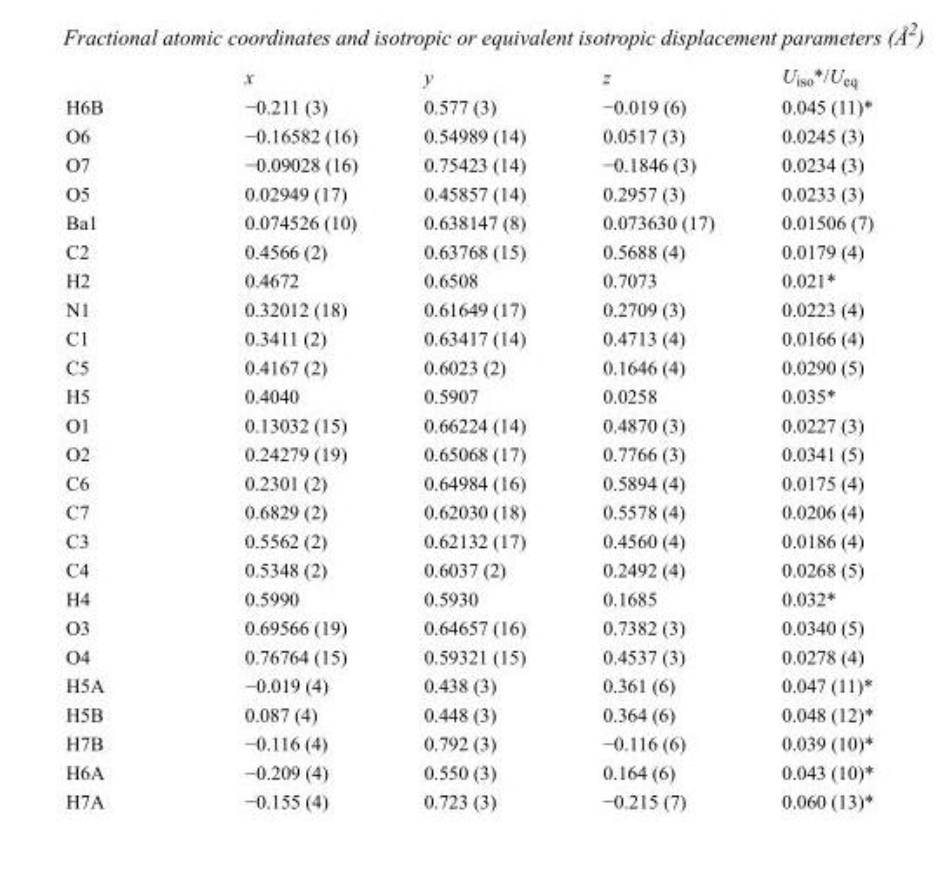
<table><thead><tr><td></td><td>x</td><td>y</td><td>z</td><td>U<sub>iso</sub>*/U<sub>eq</sub></td></tr></thead><tbody><tr><td>H6B</td><td>−0.211 (3)</td><td>0.577 (3)</td><td>−0.019 (6)</td><td>0.045 (11)*</td></tr><tr><td>O6</td><td>−0.16582 (16)</td><td>0.54989 (14)</td><td>0.0517 (3)</td><td>0.0245 (3)</td></tr><tr><td>O7</td><td>−0.09028 (16)</td><td>0.75423 (14)</td><td>−0.1846 (3)</td><td>0.0234 (3)</td></tr><tr><td>O5</td><td>0.02949 (17)</td><td>0.45857 (14)</td><td>0.2957 (3)</td><td>0.0233 (3)</td></tr><tr><td>Ba1</td><td>0.074526 (10)</td><td>0.638147 (8)</td><td>0.073630 (17)</td><td>0.01506 (7)</td></tr><tr><td>C2</td><td>0.4566 (2)</td><td>0.63768 (15)</td><td>0.5688 (4)</td><td>0.0179 (4)</td></tr><tr><td>H2</td><td>0.4672</td><td>0.6508</td><td>0.7073</td><td>0.021*</td></tr><tr><td>N1</td><td>0.32012 (18)</td><td>0.61649 (17)</td><td>0.2709 (3)</td><td>0.0223 (4)</td></tr><tr><td>C1</td><td>0.3411 (2)</td><td>0.63417 (14)</td><td>0.4713 (4)</td><td>0.0166 (4)</td></tr><tr><td>C5</td><td>0.4167 (2)</td><td>0.6023 (2)</td><td>0.1646 (4)</td><td>0.0290 (5)</td></tr><tr><td>H5</td><td>0.4040</td><td>0.5907</td><td>0.0258</td><td>0.035*</td></tr><tr><td>O1</td><td>0.13032 (15)</td><td>0.66224 (14)</td><td>0.4870 (3)</td><td>0.0227 (3)</td></tr><tr><td>O2</td><td>0.24279 (19)</td><td>0.65068 (17)</td><td>0.7766 (3)</td><td>0.0341 (5)</td></tr><tr><td>C6</td><td>0.2301 (2)</td><td>0.64984 (16)</td><td>0.5894 (4)</td><td>0.0175 (4)</td></tr><tr><td>C7</td><td>0.6829 (2)</td><td>0.62030 (18)</td><td>0.5578 (4)</td><td>0.0206 (4)</td></tr><tr><td>C3</td><td>0.5562 (2)</td><td>0.62132 (17)</td><td>0.4560 (4)</td><td>0.0186 (4)</td></tr><tr><td>C4</td><td>0.5348 (2)</td><td>0.6037 (2)</td><td>0.2492 (4)</td><td>0.0268 (5)</td></tr><tr><td>H4</td><td>0.5990</td><td>0.5930</td><td>0.1685</td><td>0.032*</td></tr><tr><td>O3</td><td>0.69566 (19)</td><td>0.64657 (16)</td><td>0.7382 (3)</td><td>0.0340 (5)</td></tr><tr><td>O4</td><td>0.76764 (15)</td><td>0.59321 (15)</td><td>0.4537 (3)</td><td>0.0278 (4)</td></tr><tr><td>H5A</td><td>−0.019 (4)</td><td>0.438 (3)</td><td>0.361 (6)</td><td>0.047 (11)*</td></tr><tr><td>H5B</td><td>0.087 (4)</td><td>0.448 (3)</td><td>0.364 (6)</td><td>0.048 (12)*</td></tr><tr><td>H7B</td><td>−0.116 (4)</td><td>0.792 (3)</td><td>−0.116 (6)</td><td>0.039 (10)*</td></tr><tr><td>H6A</td><td>−0.209 (4)</td><td>0.550 (3)</td><td>0.164 (6)</td><td>0.043 (10)*</td></tr><tr><td>H7A</td><td>−0.155 (4)</td><td>0.723 (3)</td><td>−0.215 (7)</td><td>0.060 (13)*</td></tr></tbody></table>